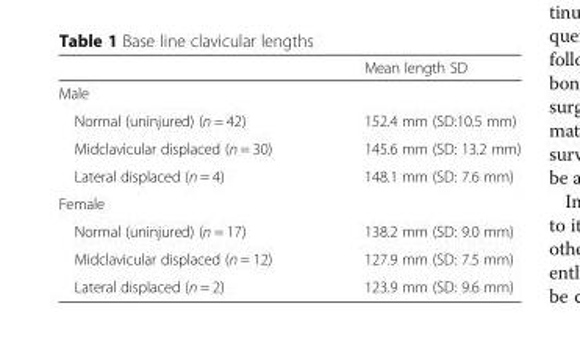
<table><thead><tr><td></td><td>Mean length SD</td></tr></thead><tbody><tr><td colspan="2">Male</td></tr><tr><td>Normal (uninjured) (n = 42)</td><td>152.4 mm (SD:10.5 mm)</td></tr><tr><td>Midclavicular displaced (n = 30)</td><td>145.6 mm (SD: 13.2 mm)</td></tr><tr><td>Lateral displaced (n = 4)</td><td>148.1 mm (SD: 7.6 mm)</td></tr><tr><td colspan="2">Female</td></tr><tr><td>Normal (uninjured) (n = 17)</td><td>138.2 mm (SD: 9.0 mm)</td></tr><tr><td>Midclavicular displaced (n = 12)</td><td>127.9 mm (SD: 7.5 mm)</td></tr><tr><td>Lateral displaced (n = 2)</td><td>123.9 mm (SD: 9.6 mm)</td></tr></tbody></table>